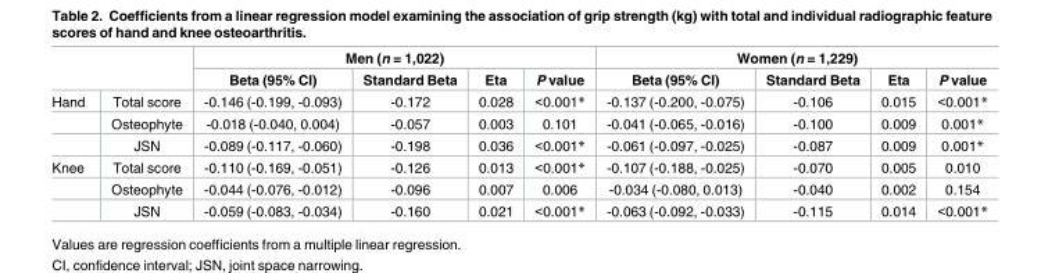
<table><thead><tr><td rowspan="2"></td><td rowspan="2"></td><td colspan="4">Men (n = 1,022)</td><td colspan="4">Women (n = 1,229)</td></tr><tr><td>Beta (95% CI)</td><td>Standard Beta</td><td>Eta</td><td>P value</td><td>Beta (95% CI)</td><td>Standard Beta</td><td>Eta</td><td>P value</td></tr></thead><tbody><tr><td rowspan="3">Hand</td><td>Total score</td><td>-0.146 (-0.199, -0.093)</td><td>-0.172</td><td>0.028</td><td>&lt;0.001*</td><td>-0.137 (-0.200, -0.075)</td><td>-0.106</td><td>0.015</td><td>&lt;0.001*</td></tr><tr><td>Osteophyte</td><td>-0.018 (-0.040, 0.004)</td><td>-0.057</td><td>0.003</td><td>0.101</td><td>-0.041 (-0.065, -0.016)</td><td>-0.100</td><td>0.009</td><td>0.001*</td></tr><tr><td>JSN</td><td>-0.089 (-0.117, -0.060)</td><td>-0.198</td><td>0.036</td><td>&lt;0.001*</td><td>-0.061 (-0.097, -0.025)</td><td>-0.087</td><td>0.009</td><td>0.001*</td></tr><tr><td rowspan="3">Knee</td><td>Total score</td><td>-0.110 (-0.169, -0.051)</td><td>-0.126</td><td>0.013</td><td>&lt;0.001*</td><td>-0.107 (-0.188, -0.025)</td><td>-0.070</td><td>0.005</td><td>0.010</td></tr><tr><td>Osteophyte</td><td>-0.044 (-0.076, -0.012)</td><td>-0.096</td><td>0.007</td><td>0.006</td><td>-0.034 (-0.080, 0.013)</td><td>-0.040</td><td>0.002</td><td>0.154</td></tr><tr><td>JSN</td><td>-0.059 (-0.083, -0.034)</td><td>-0.160</td><td>0.021</td><td>&lt;0.001*</td><td>-0.063 (-0.092, -0.033)</td><td>-0.115</td><td>0.014</td><td>&lt;0.001*</td></tr></tbody></table>